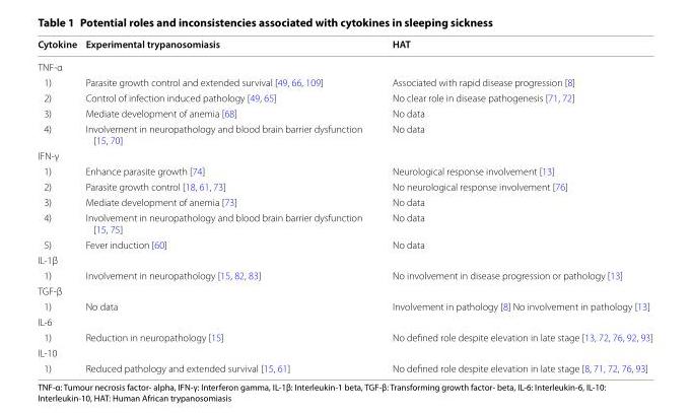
<table><thead><tr><td>Cytokine</td><td>Experimental trypanosomiasis</td><td>HAT</td></tr></thead><tbody><tr><td colspan="3">TNF-α</td></tr><tr><td>1)</td><td>Parasite growth control and extended survival [49, 66, 109]</td><td>Associated with rapid disease progression [8]</td></tr><tr><td>2)</td><td>Control of infection induced pathology [49, 65]</td><td>No clear role in disease pathogenesis [71, 72]</td></tr><tr><td>3)</td><td>Mediate development of anemia [68]</td><td>No data</td></tr><tr><td>4)</td><td>Involvement in neuropathology and blood brain barrier dysfunction [15, 70]</td><td>No data</td></tr><tr><td colspan="3">IFN-γ</td></tr><tr><td>1)</td><td>Enhance parasite growth [74]</td><td>Neurological response involvement [13]</td></tr><tr><td>2)</td><td>Parasite growth control [18, 61, 73]</td><td>No neurological response involvement [76]</td></tr><tr><td>3)</td><td>Mediate development of anemia [73]</td><td>No data</td></tr><tr><td>4)</td><td>Involvement in neuropathology and blood brain barrier dysfunction [15, 75]</td><td>No data</td></tr><tr><td>5)</td><td>Fever induction [60]</td><td>No data</td></tr><tr><td colspan="3">IL-1β</td></tr><tr><td>1)</td><td>Involvement in neuropathology [15, 82, 83]</td><td>No involvement in disease progression or pathology [13]</td></tr><tr><td colspan="3">TGF-β</td></tr><tr><td>1)</td><td>No data</td><td>Involvement in pathology [8] No involvement in pathology [13]</td></tr><tr><td colspan="3">IL-6</td></tr><tr><td>1)</td><td>Reduction in neuropathology [15]</td><td>No defined role despite elevation in late stage [13, 72, 76, 92, 93]</td></tr><tr><td colspan="3">IL-10</td></tr><tr><td>1)</td><td>Reduced pathology and extended survival [15, 61]</td><td>No defined role despite elevation in late stage [8, 71, 72, 76, 93]</td></tr></tbody></table>